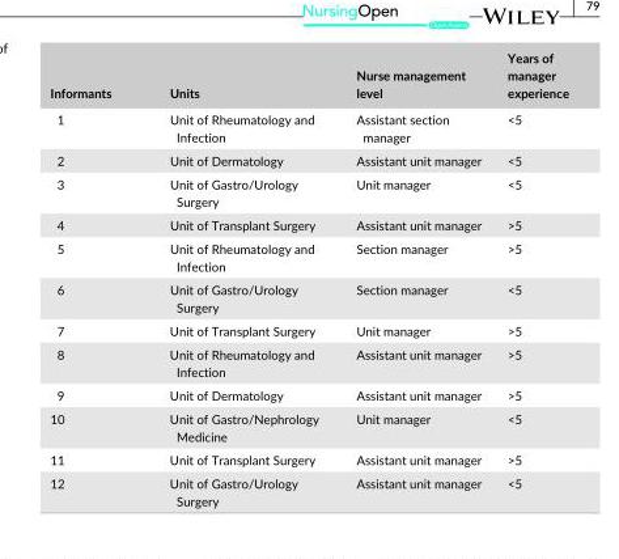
<table><thead><tr><td>Informants</td><td>Units</td><td>Nurse management level</td><td>Years of manager experience</td></tr></thead><tbody><tr><td>1</td><td>Unit of Rheumatology and Infection</td><td>Assistant section manager</td><td>&lt;5</td></tr><tr><td>2</td><td>Unit of Dermatology</td><td>Assistant unit manager</td><td>&lt;5</td></tr><tr><td>3</td><td>Unit of Gastro/Urology Surgery</td><td>Unit manager</td><td>&lt;5</td></tr><tr><td>4</td><td>Unit of Transplant Surgery</td><td>Assistant unit manager</td><td>&gt;5</td></tr><tr><td>5</td><td>Unit of Rheumatology and Infection</td><td>Section manager</td><td>&gt;5</td></tr><tr><td>6</td><td>Unit of Gastro/Urology Surgery</td><td>Section manager</td><td>&lt;5</td></tr><tr><td>7</td><td>Unit of Transplant Surgery</td><td>Unit manager</td><td>&gt;5</td></tr><tr><td>8</td><td>Unit of Rheumatology and Infection</td><td>Assistant unit manager</td><td>&gt;5</td></tr><tr><td>9</td><td>Unit of Dermatology</td><td>Assistant unit manager</td><td>&gt;5</td></tr><tr><td>10</td><td>Unit of Gastro/Nephrology Medicine</td><td>Unit manager</td><td>&lt;5</td></tr><tr><td>11</td><td>Unit of Transplant Surgery</td><td>Assistant unit manager</td><td>&gt;5</td></tr><tr><td>12</td><td>Unit of Gastro/Urology Surgery</td><td>Assistant unit manager</td><td>&lt;5</td></tr></tbody></table>